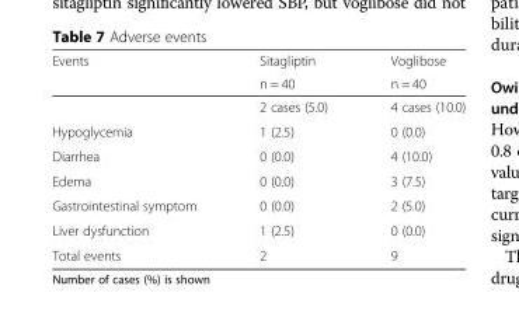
<table><thead><tr><td rowspan="2">Events</td><td rowspan="2">Sitagliptin n = 40</td><td rowspan="2">Voglibose n = 40</td></tr><tr></tr></thead><tbody><tr><td></td><td>2 cases (5.0)</td><td>4 cases (10.0)</td></tr><tr><td>Hypoglycemia</td><td>1 (2.5)</td><td>0 (0.0)</td></tr><tr><td>Diarrhea</td><td>0 (0.0)</td><td>4 (10.0)</td></tr><tr><td>Edema</td><td>0 (0.0)</td><td>3 (7.5)</td></tr><tr><td>Gastrointestinal symptom</td><td>0 (0.0)</td><td>2 (5.0)</td></tr><tr><td>Liver dysfunction</td><td>1 (2.5)</td><td>0 (0.0)</td></tr><tr><td>Total events</td><td>2</td><td>9</td></tr></tbody></table>